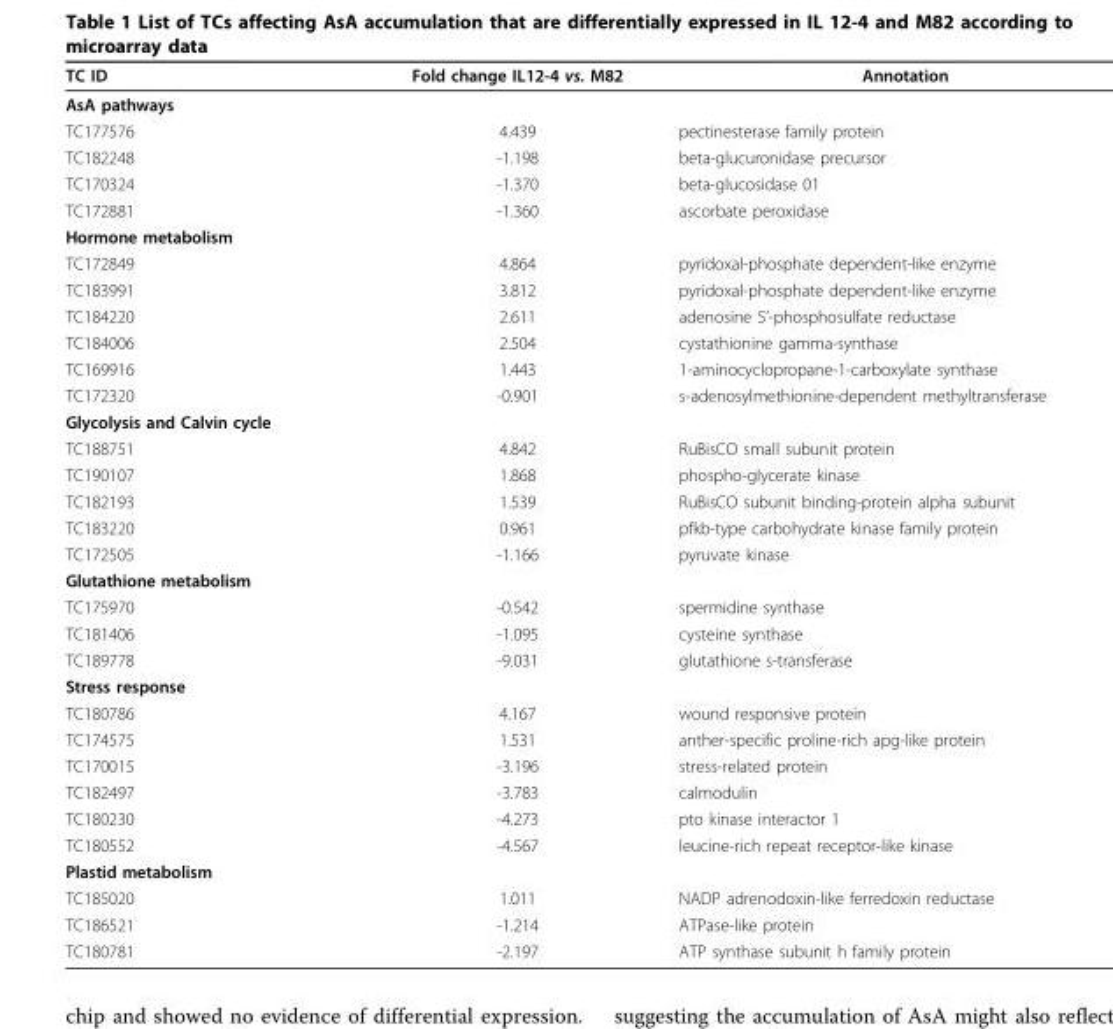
<table><thead><tr><td>TC ID</td><td>Fold change IL12-4 vs. M82</td><td>Annotation</td></tr></thead><tbody><tr><td colspan="3">AsA pathways</td></tr><tr><td>TC177576</td><td>4.439</td><td>pectinesterase family protein</td></tr><tr><td>TC182248</td><td>-1.198</td><td>beta-glucuronidase precursor</td></tr><tr><td>TC170324</td><td>-1.370</td><td>beta-glucosidase 01</td></tr><tr><td>TC172881</td><td>-1.360</td><td>ascorbate peroxidase</td></tr><tr><td colspan="3">Hormone metabolism</td></tr><tr><td>TC172849</td><td>4.864</td><td>pyridoxal-phosphate dependent-like enzyme</td></tr><tr><td>TC183991</td><td>3.812</td><td>pyridoxal-phosphate dependent-like enzyme</td></tr><tr><td>TC184220</td><td>2.611</td><td>adenosine 5’-phosphosulfate reductase</td></tr><tr><td>TC184006</td><td>2.504</td><td>cystathionine gamma-synthase</td></tr><tr><td>TC169916</td><td>1.443</td><td>1-aminocyclopropane-1-carboxylate synthase</td></tr><tr><td>TC172320</td><td>-0.901</td><td>s-adenosylmethionine-dependent methyltransferase</td></tr><tr><td colspan="3">Glycolysis and Calvin cycle</td></tr><tr><td>TC188751</td><td>4.842</td><td>RuBisCO small subunit protein</td></tr><tr><td>TC190107</td><td>1.868</td><td>phospho-glycerate kinase</td></tr><tr><td>TC182193</td><td>1.539</td><td>RuBisCO subunit binding-protein alpha subunit</td></tr><tr><td>TC183220</td><td>0.961</td><td>pfkb-type carbohydrate kinase family protein</td></tr><tr><td>TC172505</td><td>-1.166</td><td>pyruvate kinase</td></tr><tr><td colspan="3">Glutathione metabolism</td></tr><tr><td>TC175970</td><td>-0.542</td><td>spermidine synthase</td></tr><tr><td>TC181406</td><td>-1.095</td><td>cysteine synthase</td></tr><tr><td>TC189778</td><td>-9.031</td><td>glutathione s-transferase</td></tr><tr><td colspan="3">Stress response</td></tr><tr><td>TC180786</td><td>4.167</td><td>wound responsive protein</td></tr><tr><td>TC174575</td><td>1.531</td><td>anther-specific proline-rich apg-like protein</td></tr><tr><td>TC170015</td><td>-3.196</td><td>stress-related protein</td></tr><tr><td>TC182497</td><td>-3.783</td><td>calmodulin</td></tr><tr><td>TC180230</td><td>-4.273</td><td>pto kinase interactor 1</td></tr><tr><td>TC180552</td><td>-4.567</td><td>leucine-rich repeat receptor-like kinase</td></tr><tr><td colspan="3">Plastid metabolism</td></tr><tr><td>TC185020</td><td>1.011</td><td>NADP adrenodoxin-like ferredoxin reductase</td></tr><tr><td>TC186521</td><td>-1.214</td><td>ATPase-like protein</td></tr><tr><td>TC180781</td><td>-2.197</td><td>ATP synthase subunit h family protein</td></tr></tbody></table>